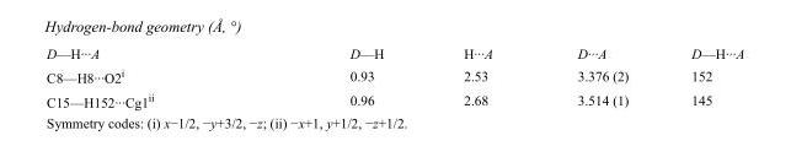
<table><tbody><tr><td>D—H···A</td><td>D—H</td><td>H···A</td><td>D···A</td><td>D—H···A</td></tr><tr><td>C8—H8···O2<sup>i</sup></td><td>0.93</td><td>2.53</td><td>3.376 (2)</td><td>152</td></tr><tr><td>C15—H152···Cg1<sup>ii</sup></td><td>0.96</td><td>2.68</td><td>3.514 (1)</td><td>145</td></tr></tbody></table>